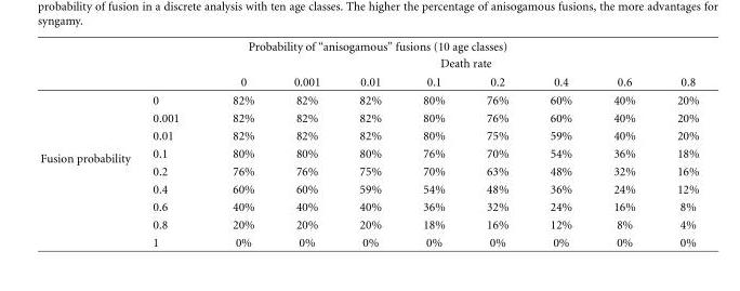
<table><thead><tr><td colspan="10">Probability of “anisogamous” fusions (10 age classes)</td></tr><tr><td rowspan="2"></td><td rowspan="2"></td><td colspan="8">Death rate</td></tr><tr><td>0</td><td>0.001</td><td>0.01</td><td>0.1</td><td>0.2</td><td>0.4</td><td>0.6</td><td>0.8</td></tr></thead><tbody><tr><td rowspan="9">Fusion probability</td><td>0</td><td>82%</td><td>82%</td><td>82%</td><td>80%</td><td>76%</td><td>60%</td><td>40%</td><td>20%</td></tr><tr><td>0.001</td><td>82%</td><td>82%</td><td>82%</td><td>80%</td><td>76%</td><td>60%</td><td>40%</td><td>20%</td></tr><tr><td>0.01</td><td>82%</td><td>82%</td><td>82%</td><td>80%</td><td>75%</td><td>59%</td><td>40%</td><td>20%</td></tr><tr><td>0.1</td><td>80%</td><td>80%</td><td>80%</td><td>76%</td><td>70%</td><td>54%</td><td>36%</td><td>18%</td></tr><tr><td>0.2</td><td>76%</td><td>76%</td><td>75%</td><td>70%</td><td>63%</td><td>48%</td><td>32%</td><td>16%</td></tr><tr><td>0.4</td><td>60%</td><td>60%</td><td>59%</td><td>54%</td><td>48%</td><td>36%</td><td>24%</td><td>12%</td></tr><tr><td>0.6</td><td>40%</td><td>40%</td><td>40%</td><td>36%</td><td>32%</td><td>24%</td><td>16%</td><td>8%</td></tr><tr><td>0.8</td><td>20%</td><td>20%</td><td>20%</td><td>18%</td><td>16%</td><td>12%</td><td>8%</td><td>4%</td></tr><tr><td>1</td><td>0%</td><td>0%</td><td>0%</td><td>0%</td><td>0%</td><td>0%</td><td>0%</td><td>0%</td></tr></tbody></table>